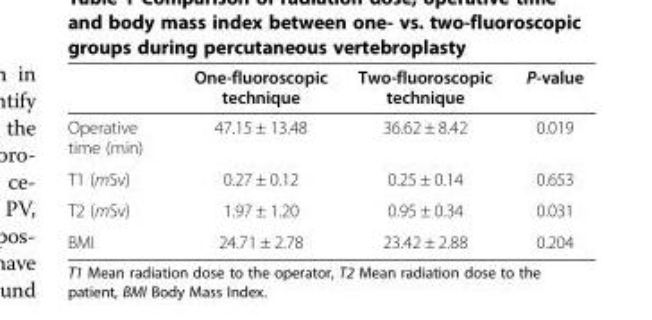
<table><thead><tr><td></td><td>One-fluoroscopic technique</td><td>Two-fluoroscopic technique</td><td>P-value</td></tr></thead><tbody><tr><td>Operative time (min)</td><td>47.15 ± 13.48</td><td>36.62 ± 8.42</td><td>0.019</td></tr><tr><td>T1 (mSv)</td><td>0.27 ± 0.12</td><td>0.25 ± 0.14</td><td>0.653</td></tr><tr><td>T2 (mSv)</td><td>1.97 ± 1.20</td><td>0.95 ± 0.34</td><td>0.031</td></tr><tr><td>BMI</td><td>24.71 ± 2.78</td><td>23.42 ± 2.88</td><td>0.204</td></tr></tbody></table>